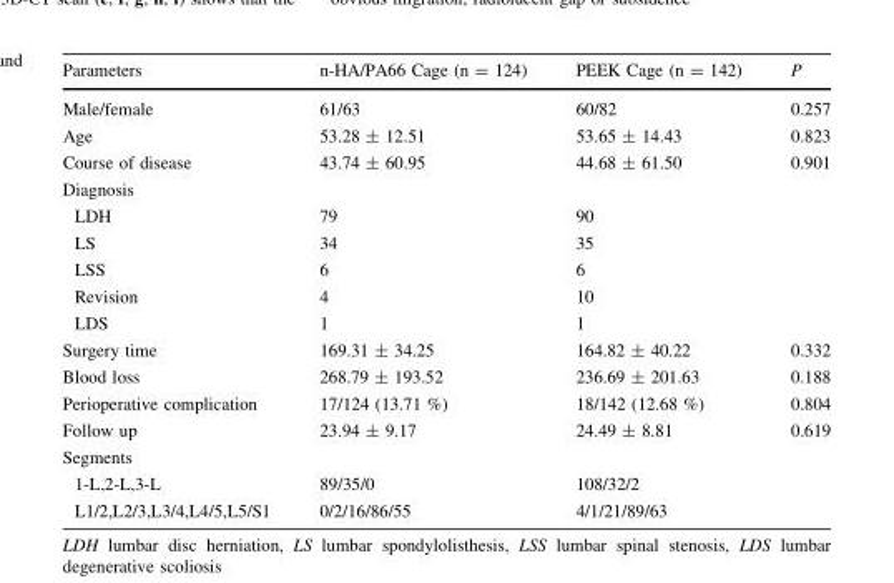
<table><thead><tr><td>Parameters</td><td>n-HA/PA66 Cage (n = 124)</td><td>PEEK Cage (n = 142)</td><td>P</td></tr></thead><tbody><tr><td>Male/female</td><td>61/63</td><td>60/82</td><td>0.257</td></tr><tr><td>Age</td><td>53.28 ± 12.51</td><td>53.65 ± 14.43</td><td>0.823</td></tr><tr><td>Course of disease</td><td>43.74 ± 60.95</td><td>44.68 ± 61.50</td><td>0.901</td></tr><tr><td colspan="4">Diagnosis</td></tr><tr><td>LDH</td><td>79</td><td>90</td><td></td></tr><tr><td>LS</td><td>34</td><td>35</td><td></td></tr><tr><td>LSS</td><td>6</td><td>6</td><td></td></tr><tr><td>Revision</td><td>4</td><td>10</td><td></td></tr><tr><td>LDS</td><td>1</td><td>1</td><td></td></tr><tr><td>Surgery time</td><td>169.31 ± 34.25</td><td>164.82 ± 40.22</td><td>0.332</td></tr><tr><td>Blood loss</td><td>268.79 ± 193.52</td><td>236.69 ± 201.63</td><td>0.188</td></tr><tr><td>Perioperative complication</td><td>17/124 (13.71 %)</td><td>18/142 (12.68 %)</td><td>0.804</td></tr><tr><td>Follow up</td><td>23.94 ± 9.17</td><td>24.49 ± 8.81</td><td>0.619</td></tr><tr><td colspan="4">Segments</td></tr><tr><td>1-L,2-L,3-L</td><td>89/35/0</td><td>108/32/2</td><td></td></tr><tr><td>L1/2,L2/3,L3/4,L4/5,L5/S1</td><td>0/2/16/86/55</td><td>4/1/21/89/63</td><td></td></tr></tbody></table>